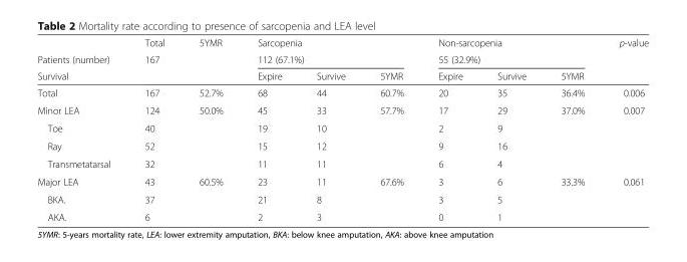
<table><thead><tr><td rowspan="3">Patients (number) Survival</td><td rowspan="3">Total 167</td><td rowspan="3">5YMR</td><td rowspan="2" colspan="3">Sarcopenia 112 (67.1%)</td><td rowspan="2" colspan="3">Non-sarcopenia 55 (32.9%)</td><td rowspan="3">p-value</td></tr><tr></tr><tr><td>Expire</td><td>Survive</td><td>5YMR</td><td>Expire</td><td>Survive</td><td>5YMR</td></tr></thead><tbody><tr><td>Total</td><td>167</td><td>52.7%</td><td>68</td><td>44</td><td>60.7%</td><td>20</td><td>35</td><td>36.4%</td><td>0.006</td></tr><tr><td>Minor LEA</td><td>124</td><td>50.0%</td><td>45</td><td>33</td><td>57.7%</td><td>17</td><td>29</td><td>37.0%</td><td>0.007</td></tr><tr><td>Toe</td><td>40</td><td></td><td>19</td><td>10</td><td></td><td>2</td><td>9</td><td></td><td></td></tr><tr><td>Ray</td><td>52</td><td></td><td>15</td><td>12</td><td></td><td>9</td><td>16</td><td></td><td></td></tr><tr><td>Transmetatarsal</td><td>32</td><td></td><td>11</td><td>11</td><td></td><td>6</td><td>4</td><td></td><td></td></tr><tr><td>Major LEA</td><td>43</td><td>60.5%</td><td>23</td><td>11</td><td>67.6%</td><td>3</td><td>6</td><td>33.3%</td><td>0.061</td></tr><tr><td>BKA.</td><td>37</td><td></td><td>21</td><td>8</td><td></td><td>3</td><td>5</td><td></td><td></td></tr><tr><td>AKA.</td><td>6</td><td></td><td>2</td><td>3</td><td></td><td>0</td><td>1</td><td></td><td></td></tr></tbody></table>